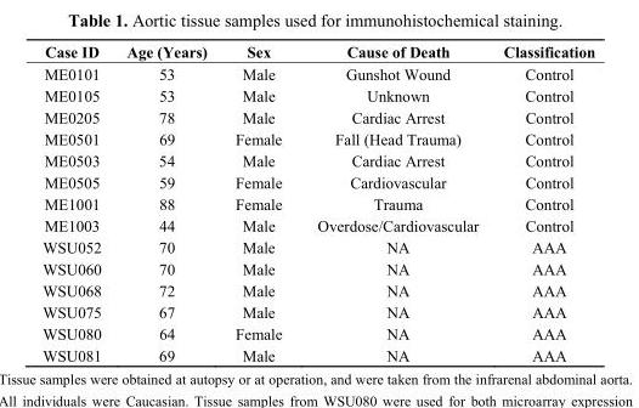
<table><thead><tr><td>Case ID</td><td>Age (Years)</td><td>Sex</td><td>Cause of Death</td><td>Classification</td></tr></thead><tbody><tr><td>ME0101</td><td>53</td><td>Male</td><td>Gunshot Wound</td><td>Control</td></tr><tr><td>ME0105</td><td>53</td><td>Male</td><td>Unknown</td><td>Control</td></tr><tr><td>ME0205</td><td>78</td><td>Male</td><td>Cardiac Arrest</td><td>Control</td></tr><tr><td>ME0501</td><td>69</td><td>Female</td><td>Fall (Head Trauma)</td><td>Control</td></tr><tr><td>ME0503</td><td>54</td><td>Male</td><td>Cardiac Arrest</td><td>Control</td></tr><tr><td>ME0505</td><td>59</td><td>Female</td><td>Cardiovascular</td><td>Control</td></tr><tr><td>ME1001</td><td>88</td><td>Female</td><td>Trauma</td><td>Control</td></tr><tr><td>ME1003</td><td>44</td><td>Male</td><td>Overdose/Cardiovascular</td><td>Control</td></tr><tr><td>WSU052</td><td>70</td><td>Male</td><td>NA</td><td>AAA</td></tr><tr><td>WSU060</td><td>70</td><td>Male</td><td>NA</td><td>AAA</td></tr><tr><td>WSU068</td><td>72</td><td>Male</td><td>NA</td><td>AAA</td></tr><tr><td>WSU075</td><td>67</td><td>Male</td><td>NA</td><td>AAA</td></tr><tr><td>WSU080</td><td>64</td><td>Female</td><td>NA</td><td>AAA</td></tr><tr><td>WSU081</td><td>69</td><td>Male</td><td>NA</td><td>AAA</td></tr></tbody></table>